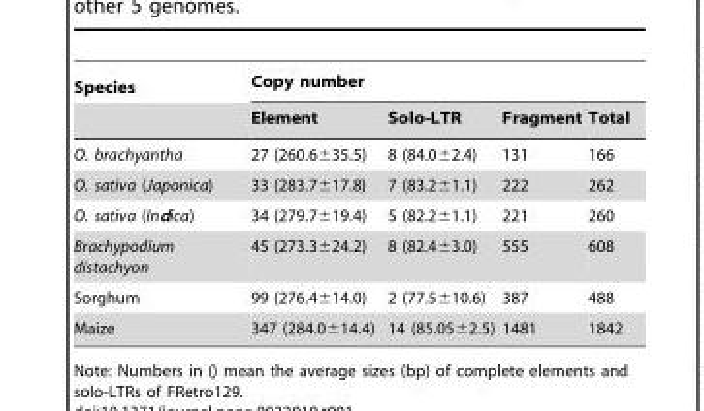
<table><thead><tr><td rowspan="2">Species</td><td colspan="4">Copy number</td></tr><tr><td>Element</td><td>Solo-LTR</td><td>Fragment</td><td>Total</td></tr></thead><tbody><tr><td>O. brachyantha</td><td>27 (260.6±35.5)</td><td>8 (84.0±2.4)</td><td>131</td><td>166</td></tr><tr><td>O. sativa (Japonica)</td><td>33 (283.7±17.8)</td><td>7 (83.2±1.1)</td><td>222</td><td>262</td></tr><tr><td>O. sativa (Indica)</td><td>34 (279.7±19.4)</td><td>5 (82.2±1.1)</td><td>221</td><td>260</td></tr><tr><td>Brachypodium distachyon</td><td>45 (273.3±24.2)</td><td>8 (82.4±3.0)</td><td>555</td><td>608</td></tr><tr><td>Sorghum</td><td>99 (276.4±14.0)</td><td>2 (77.5±10.6)</td><td>387</td><td>488</td></tr><tr><td>Maize</td><td>347 (284.0±14.4)</td><td>14 (85.05±2.5)</td><td>1481</td><td>1842</td></tr></tbody></table>